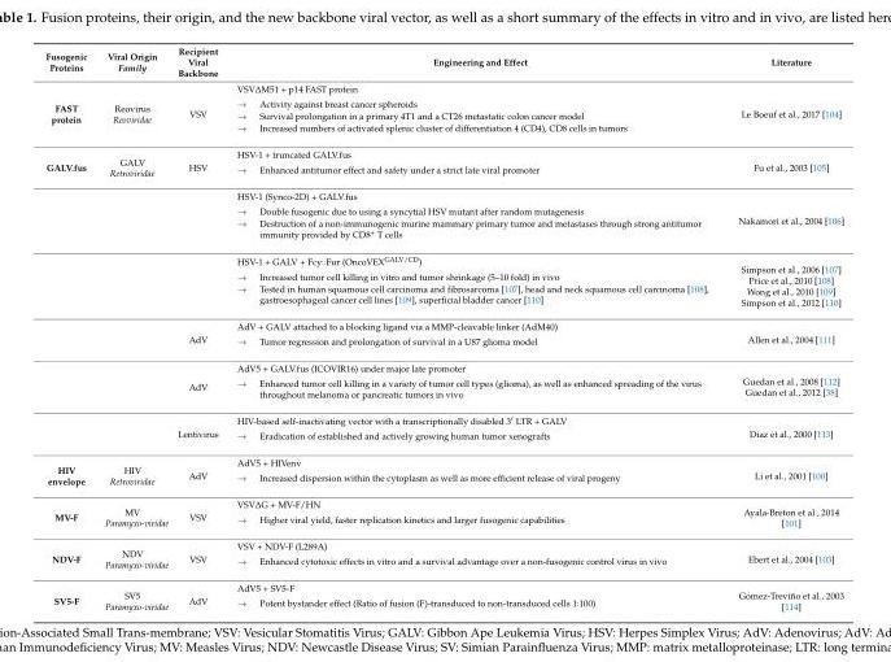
<table><thead><tr><td>Fusogenic Proteins</td><td>Viral Origin Family</td><td>Recipient Viral Backbone</td><td>Engineering and Effect</td><td>Literature</td></tr></thead><tbody><tr><td>FAST protein</td><td>Reovirus Reoviridae</td><td>VSV</td><td>VSV∆M51 + p14 FAST protein → Activity against breast cancer spheroids → Survival prolongation in a primary 4T1 and a CT26 metastatic colon cancer model → Increased numbers of activated splenic cluster of differentiation 4 (CD4), CD8 cells in tumors</td><td>Le Boeuf et al., 2017 [104]</td></tr><tr><td rowspan="6">GALV.fus</td><td>GALV Retroviridae</td><td>HSV</td><td>HSV-1 + truncated GALV.fus → Enhanced antitumor effect and safety under a strict late viral promoter</td><td>Fu et al., 2003 [105]</td></tr><tr><td></td><td></td><td>HSV-1 (Synco-2D) + GALV.fus → Double fusogenic due to using a syncytial HSV mutant after random mutagenesis → Destruction of a non-immunogenic murine mammary primary tumor and metastases through strong antitumor immunity provided by CD8<sup>+</sup> T cells</td><td>Nakamori et al., 2004 [106]</td></tr><tr><td></td><td></td><td>HSV-1 + GALV + Fcy::Fur (OncoVEX<sup>GALV/CD</sup>) → Increased tumor cell killing in vitro and tumor shrinkage (5–10 fold) in vivo → Tested in human squamous cell carcinoma and fibrosarcoma [107], head and neck squamous cell carcinoma [108], gastroesophageal cancer cell lines [109], superficial bladder cancer [110]</td><td>Simpson et al., 2006 [107] Price et al., 2010 [108] Wong et al., 2010 [109] Simpson et al., 2012 [110]</td></tr><tr><td></td><td>AdV</td><td>AdV + GALV attached to a blocking ligand via a MMP-cleavable linker (AdM40) → Tumor regression and prolongation of survival in a U87 glioma model</td><td>Allen et al., 2004 [111]</td></tr><tr><td></td><td>AdV</td><td>AdV5 + GALV.fus (ICOVIR16) under major late promoter → Enhanced tumor cell killing in a variety of tumor cell types (glioma), as well as enhanced spreading of the virus throughout melanoma or pancreatic tumors in vivo</td><td>Guedan et al., 2008 [112] Guedan et al., 2012 [38]</td></tr><tr><td></td><td>Lentivirus</td><td>HIV-based self-inactivating vector with a transcriptionally disabled 3′ LTR + GALV → Eradication of established and actively growing human tumor xenografts</td><td>Diaz et al., 2000 [113]</td></tr><tr><td>HIV envelope</td><td>HIV Retroviridae</td><td>AdV</td><td>AdV5 + HIVenv → Increased dispersion within the cytoplasm as well as more efficient release of viral progeny</td><td>Li et al., 2001 [100]</td></tr><tr><td>MV-F</td><td>MV Paramyxo-viridae</td><td>VSV</td><td>VSV∆G + MV-F/HN → Higher viral yield, faster replication kinetics and larger fusogenic capabilities</td><td>Ayala-Breton et al., 2014 [101]</td></tr><tr><td>NDV-F</td><td>NDV Paramyxo-viridae</td><td>VSV</td><td>VSV + NDV-F (L289A) → Enhanced cytotoxic effects in vitro and a survival advantage over a non-fusogenic control virus in vivo</td><td>Ebert et al., 2004 [103]</td></tr><tr><td>SV5-F</td><td>SV5 Paramyxo-viridae</td><td>AdV</td><td>AdV5 + SV5-F → Potent bystander effect (Ratio of fusion (F)-transduced to non-transduced cells 1:100)</td><td>Gómez-Treviño et al., 2003 [114]</td></tr></tbody></table>